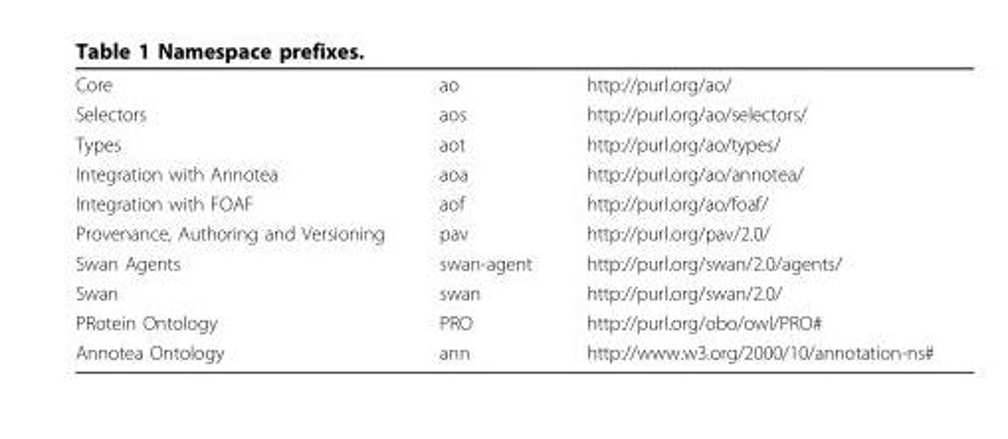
<table><tbody><tr><td>Core</td><td>ao</td><td>http://purl.org/ao/</td></tr><tr><td>Selectors</td><td>aos</td><td>http://purl.org/ao/selectors/</td></tr><tr><td>Types</td><td>aot</td><td>http://purl.org/ao/types/</td></tr><tr><td>Integration with Annotea</td><td>aoa</td><td>http://purl.org/ao/annotea/</td></tr><tr><td>Integration with FOAF</td><td>aof</td><td>http://purl.org/ao/foaf/</td></tr><tr><td>Provenance, Authoring and Versioning</td><td>pav</td><td>http://purl.org/pav/2.0/</td></tr><tr><td>Swan Agents</td><td>swan-agent</td><td>http://purl.org/swan/2.0/agents/</td></tr><tr><td>Swan</td><td>swan</td><td>http://purl.org/swan/2.0/</td></tr><tr><td>PRotein Ontology</td><td>PRO</td><td>http://purl.org/obo/owl/PRO#</td></tr><tr><td>Annotea Ontology</td><td>ann</td><td>http://www.w3.org/2000/10/annotation-ns#</td></tr></tbody></table>